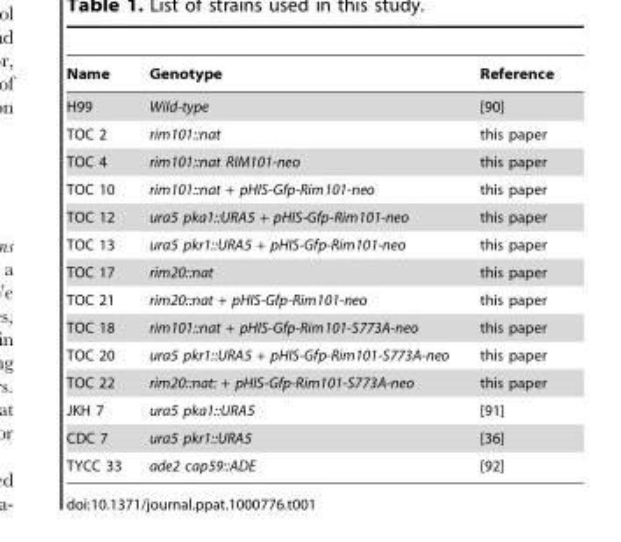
<table><thead><tr><td>Name</td><td>Genotype</td><td>Reference</td></tr></thead><tbody><tr><td>H99</td><td>Wild-type</td><td>[90]</td></tr><tr><td>TOC 2</td><td>rim101::nat</td><td>this paper</td></tr><tr><td>TOC 4</td><td>rim101::nat RIM101-neo</td><td>this paper</td></tr><tr><td>TOC 10</td><td>rim101::nat + pHIS-Gfp-Rim101-neo</td><td>this paper</td></tr><tr><td>TOC 12</td><td>ura5 pka1::URA5 + pHIS-Gfp-Rim101-neo</td><td>this paper</td></tr><tr><td>TOC 13</td><td>ura5 pkr1::URA5 + pHIS-Gfp-Rim101-neo</td><td>this paper</td></tr><tr><td>TOC 17</td><td>rim20::nat</td><td>this paper</td></tr><tr><td>TOC 21</td><td>rim20::nat + pHIS-Gfp-Rim101-neo</td><td>this paper</td></tr><tr><td>TOC 18</td><td>rim101::nat + pHIS-Gfp-Rim101-S773A-neo</td><td>this paper</td></tr><tr><td>TOC 20</td><td>ura5 pkr1::URA5 + pHIS-Gfp-Rim101-S773A-neo</td><td>this paper</td></tr><tr><td>TOC 22</td><td>rim20::nat: + pHIS-Gfp-Rim101-S773A-neo</td><td>this paper</td></tr><tr><td>JKH 7</td><td>ura5 pka1::URA5</td><td>[91]</td></tr><tr><td>CDC 7</td><td>ura5 pkr1::URA5</td><td>[36]</td></tr><tr><td>TYCC 33</td><td>ade2 cap59::ADE</td><td>[92]</td></tr></tbody></table>